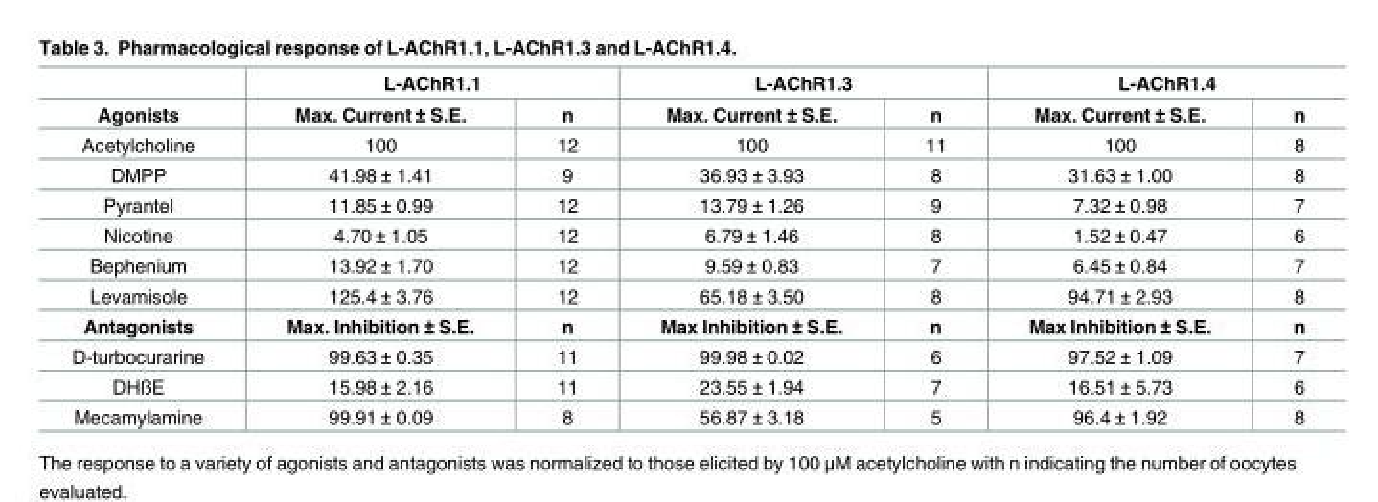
<table><thead><tr><td rowspan="2">Agonists</td><td colspan="2">L-AChR1.1</td><td colspan="2">L-AChR1.3</td><td colspan="2">L-AChR1.4</td></tr><tr><td>Max. Current ± S.E.</td><td>n</td><td>Max. Current ± S.E.</td><td>n</td><td>Max. Current ± S.E.</td><td>n</td></tr></thead><tbody><tr><td>Acetylcholine</td><td>100</td><td>12</td><td>100</td><td>11</td><td>100</td><td>8</td></tr><tr><td>DMPP</td><td>41.98 ± 1.41</td><td>9</td><td>36.93 ± 3.93</td><td>8</td><td>31.63 ± 1.00</td><td>8</td></tr><tr><td>Pyrantel</td><td>11.85 ± 0.99</td><td>12</td><td>13.79 ± 1.26</td><td>9</td><td>7.32 ± 0.98</td><td>7</td></tr><tr><td>Nicotine</td><td>4.70 ± 1.05</td><td>12</td><td>6.79 ± 1.46</td><td>8</td><td>1.52 ± 0.47</td><td>6</td></tr><tr><td>Bephenium</td><td>13.92 ± 1.70</td><td>12</td><td>9.59 ± 0.83</td><td>7</td><td>6.45 ± 0.84</td><td>7</td></tr><tr><td>Levamisole</td><td>125.4 ± 3.76</td><td>12</td><td>65.18 ± 3.50</td><td>8</td><td>94.71 ± 2.93</td><td>8</td></tr><tr><td>Antagonists</td><td>Max. Inhibition ± S.E.</td><td>n</td><td>Max Inhibition ± S.E.</td><td>n</td><td>Max Inhibition ± S.E.</td><td>n</td></tr><tr><td>D-turbocurarine</td><td>99.63 ± 0.35</td><td>11</td><td>99.98 ± 0.02</td><td>6</td><td>97.52 ± 1.09</td><td>7</td></tr><tr><td>DHßE</td><td>15.98 ± 2.16</td><td>11</td><td>23.55 ± 1.94</td><td>7</td><td>16.51 ± 5.73</td><td>6</td></tr><tr><td>Mecamylamine</td><td>99.91 ± 0.09</td><td>8</td><td>56.87 ± 3.18</td><td>5</td><td>96.4 ± 1.92</td><td>8</td></tr></tbody></table>